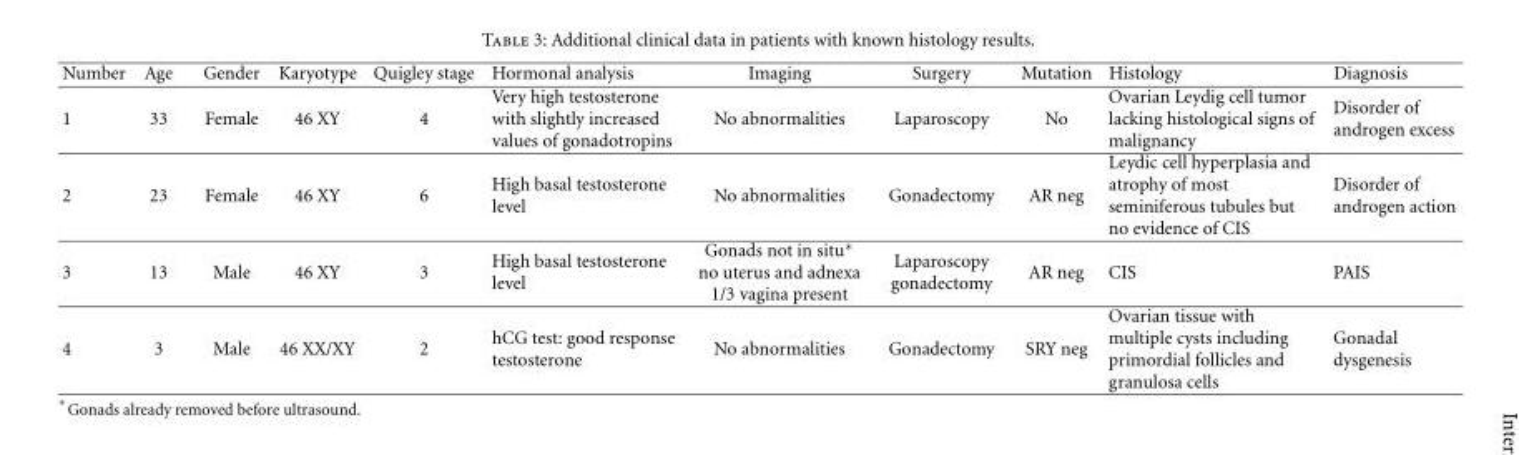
<table><thead><tr><td>Number</td><td>Age</td><td>Gender</td><td>Karyotype</td><td>Quigley stage</td><td>Hormonal analysis</td><td>Imaging</td><td>Surgery</td><td>Mutation</td><td>Histology</td><td>Diagnosis</td></tr></thead><tbody><tr><td>1</td><td>33</td><td>Female</td><td>46 XY</td><td>4</td><td>Very high testosterone with slightly increased values of gonadotropins</td><td>No abnormalities</td><td>Laparoscopy</td><td>No</td><td>Ovarian Leydig cell tumor lacking histological signs of malignancy</td><td>Disorder of androgen excess</td></tr><tr><td>2</td><td>23</td><td>Female</td><td>46 XY</td><td>6</td><td>High basal testosterone level</td><td>No abnormalities</td><td>Gonadectomy</td><td>AR neg</td><td>Leydic cell hyperplasia and atrophy of most seminiferous tubules but no evidence of CIS</td><td>Disorder of androgen action</td></tr><tr><td>3</td><td>13</td><td>Male</td><td>46 XY</td><td>3</td><td>High basal testosterone level</td><td>Gonads not in situ∗ no uterus and adnexa 1/3 vagina present</td><td>Laparoscopy gonadectomy</td><td>AR neg</td><td>CIS</td><td>PAIS</td></tr><tr><td>4</td><td>3</td><td>Male</td><td>46 XX/XY</td><td>2</td><td>hCG test: good response testosterone</td><td>No abnormalities</td><td>Gonadectomy</td><td>SRY neg</td><td>Ovarian tissue with multiple cysts including primordial follicles and granulosa cells</td><td>Gonadal dysgenesis</td></tr></tbody></table>